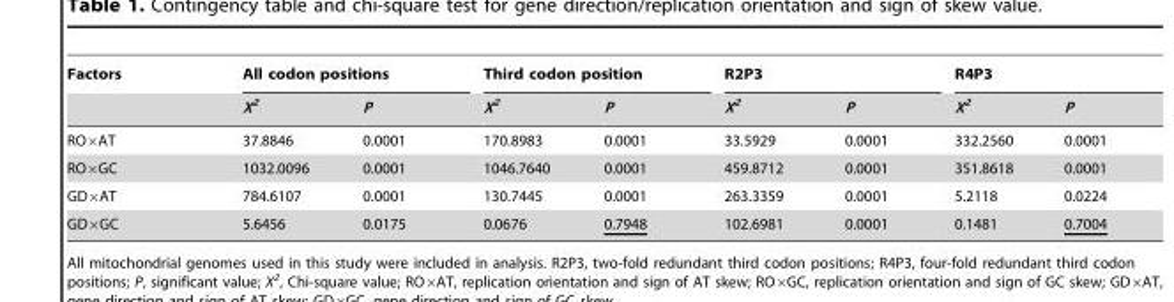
<table><thead><tr><td rowspan="2">Factors</td><td colspan="2">All codon positions</td><td colspan="2">Third codon position</td><td colspan="2">R2P3</td><td colspan="2">R4P3</td></tr><tr><td>X<sup>2</sup></td><td>P</td><td>X<sup>2</sup></td><td>P</td><td>X<sup>2</sup></td><td>P</td><td>X<sup>2</sup></td><td>P</td></tr></thead><tbody><tr><td>RO×AT</td><td>37.8846</td><td>0.0001</td><td>170.8983</td><td>0.0001</td><td>33.5929</td><td>0.0001</td><td>332.2560</td><td>0.0001</td></tr><tr><td>RO×GC</td><td>1032.0096</td><td>0.0001</td><td>1046.7640</td><td>0.0001</td><td>459.8712</td><td>0.0001</td><td>351.8618</td><td>0.0001</td></tr><tr><td>GD×AT</td><td>784.6107</td><td>0.0001</td><td>130.7445</td><td>0.0001</td><td>263.3359</td><td>0.0001</td><td>5.2118</td><td>0.0224</td></tr><tr><td>GD×GC</td><td>5.6456</td><td>0.0175</td><td>0.0676</td><td>0.7948</td><td>102.6981</td><td>0.0001</td><td>0.1481</td><td>0.7004</td></tr></tbody></table>